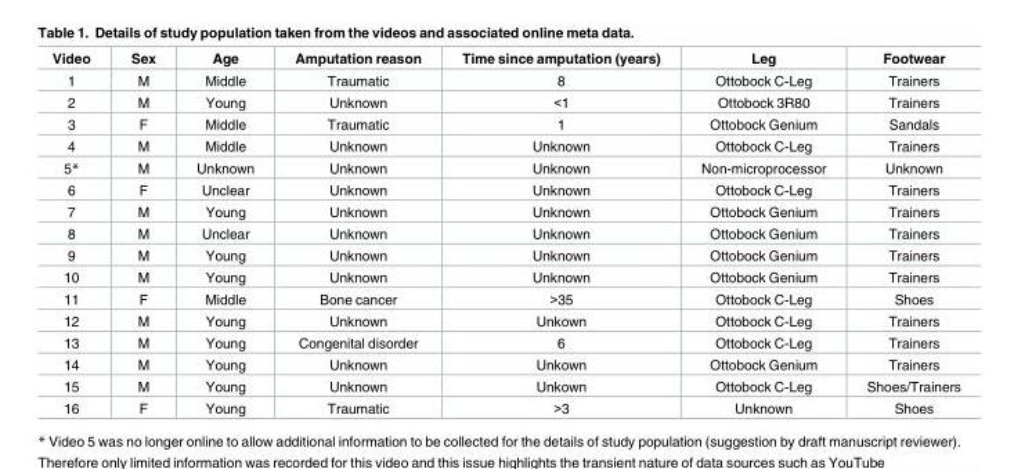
<table><thead><tr><td>Video</td><td>Sex</td><td>Age</td><td>Amputation reason</td><td>Time since amputation (years)</td><td>Leg</td><td>Footwear</td></tr></thead><tbody><tr><td>1</td><td>M</td><td>Middle</td><td>Traumatic</td><td>8</td><td>Ottobock C-Leg</td><td>Trainers</td></tr><tr><td>2</td><td>M</td><td>Young</td><td>Unknown</td><td>&lt;1</td><td>Ottobock 3R80</td><td>Trainers</td></tr><tr><td>3</td><td>F</td><td>Middle</td><td>Traumatic</td><td>1</td><td>Ottobock Genium</td><td>Sandals</td></tr><tr><td>4</td><td>M</td><td>Middle</td><td>Unknown</td><td>Unknown</td><td>Ottobock C-Leg</td><td>Trainers</td></tr><tr><td>5*</td><td>M</td><td>Unknown</td><td>Unknown</td><td>Unknown</td><td>Non-microprocessor</td><td>Unknown</td></tr><tr><td>6</td><td>F</td><td>Unclear</td><td>Unknown</td><td>Unknown</td><td>Ottobock C-Leg</td><td>Trainers</td></tr><tr><td>7</td><td>M</td><td>Young</td><td>Unknown</td><td>Unknown</td><td>Ottobock Genium</td><td>Trainers</td></tr><tr><td>8</td><td>M</td><td>Unclear</td><td>Unknown</td><td>Unknown</td><td>Ottobock Genium</td><td>Trainers</td></tr><tr><td>9</td><td>M</td><td>Young</td><td>Unknown</td><td>Unknown</td><td>Ottobock Genium</td><td>Trainers</td></tr><tr><td>10</td><td>M</td><td>Young</td><td>Unknown</td><td>Unknown</td><td>Ottobock Genium</td><td>Trainers</td></tr><tr><td>11</td><td>F</td><td>Middle</td><td>Bone cancer</td><td>&gt;35</td><td>Ottobock C-Leg</td><td>Shoes</td></tr><tr><td>12</td><td>M</td><td>Young</td><td>Unknown</td><td>Unkown</td><td>Ottobock C-Leg</td><td>Trainers</td></tr><tr><td>13</td><td>M</td><td>Young</td><td>Congenital disorder</td><td>6</td><td>Ottobock C-Leg</td><td>Trainers</td></tr><tr><td>14</td><td>M</td><td>Young</td><td>Unknown</td><td>Unkown</td><td>Ottobock Genium</td><td>Trainers</td></tr><tr><td>15</td><td>M</td><td>Young</td><td>Unknown</td><td>Unkown</td><td>Ottobock C-Leg</td><td>Shoes/Trainers</td></tr><tr><td>16</td><td>F</td><td>Young</td><td>Traumatic</td><td>&gt;3</td><td>Unknown</td><td>Shoes</td></tr></tbody></table>